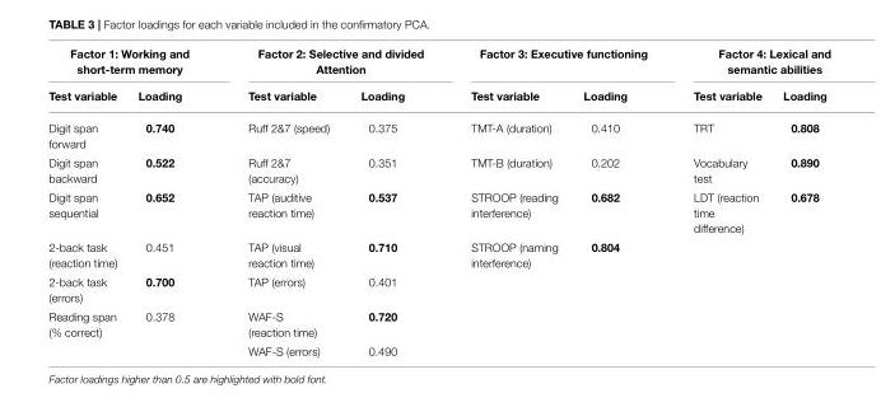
<table><thead><tr><td colspan="2">Factor 1: Working and short-term memory</td><td colspan="2">Factor 2: Selective and divided Attention</td><td colspan="2">Factor 3: Executive functioning</td><td colspan="2">Factor 4: Lexical and semantic abilities</td></tr><tr><td>Test variable</td><td>Loading</td><td>Test variable</td><td>Loading</td><td>Test variable</td><td>Loading</td><td>Test variable</td><td>Loading</td></tr></thead><tbody><tr><td>Digit span forward</td><td>0.740</td><td>Ruff 2&amp;7 (speed)</td><td>0.375</td><td>TMT-A (duration)</td><td>0.410</td><td>TRT</td><td>0.808</td></tr><tr><td>Digit span backward</td><td>0.522</td><td>Ruff 2&amp;7 (accuracy)</td><td>0.351</td><td>TMT-B (duration)</td><td>0.202</td><td>Vocabulary test</td><td>0.890</td></tr><tr><td>Digit span sequential</td><td>0.652</td><td>TAP (auditive reaction time)</td><td>0.537</td><td>STROOP (reading interference)</td><td>0.682</td><td>LDT (reaction time difference)</td><td>0.678</td></tr><tr><td>2-back task (reaction time)</td><td>0.451</td><td>TAP (visual reaction time)</td><td>0.710</td><td>STROOP (naming interference)</td><td>0.804</td><td></td><td></td></tr><tr><td>2-back task (errors)</td><td>0.700</td><td>TAP (errors)</td><td>0.401</td><td></td><td></td><td></td><td></td></tr><tr><td rowspan="2">Reading span (% correct)</td><td>0.378</td><td>WAF-S (reaction time)</td><td>0.720</td><td></td><td></td><td></td><td></td></tr><tr><td></td><td>WAF-S (errors)</td><td>0.490</td><td></td><td></td><td></td><td></td></tr></tbody></table>